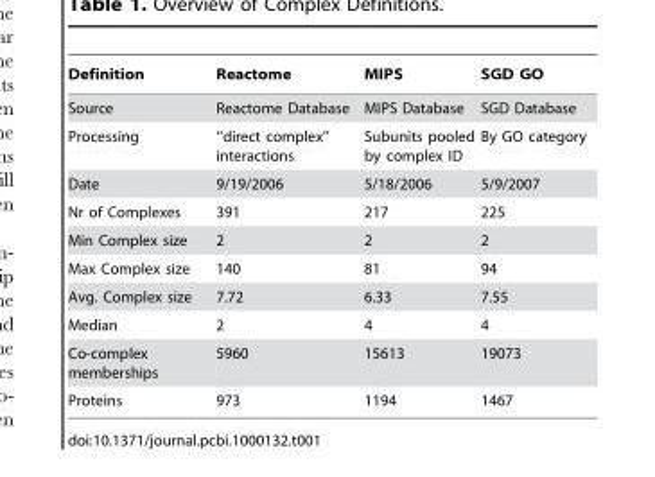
<table><thead><tr><td>Definition</td><td>Reactome</td><td>MIPS</td><td>SGD GO</td></tr></thead><tbody><tr><td>Source</td><td>Reactome Database</td><td>MIPS Database</td><td>SGD Database</td></tr><tr><td>Processing</td><td>‘‘direct complex’’ interactions</td><td>Subunits pooled by complex ID</td><td>By GO category</td></tr><tr><td>Date</td><td>9/19/2006</td><td>5/18/2006</td><td>5/9/2007</td></tr><tr><td>Nr of Complexes</td><td>391</td><td>217</td><td>225</td></tr><tr><td>Min Complex size</td><td>2</td><td>2</td><td>2</td></tr><tr><td>Max Complex size</td><td>140</td><td>81</td><td>94</td></tr><tr><td>Avg. Complex size</td><td>7.72</td><td>6.33</td><td>7.55</td></tr><tr><td>Median</td><td>2</td><td>4</td><td>4</td></tr><tr><td>Co-complex memberships</td><td>5960</td><td>15613</td><td>19073</td></tr><tr><td>Proteins</td><td>973</td><td>1194</td><td>1467</td></tr></tbody></table>